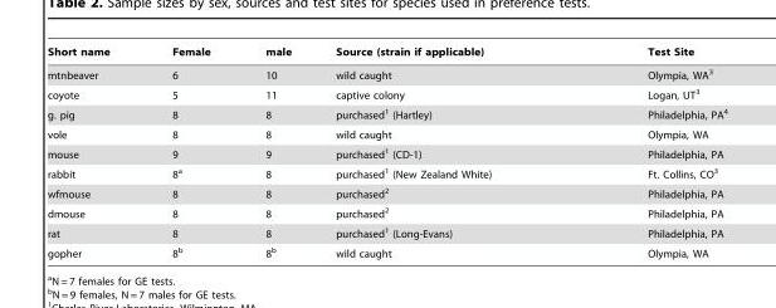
<table><thead><tr><td>Short name</td><td>Female</td><td>male</td><td>Source (strain if applicable)</td><td>Test Site</td></tr></thead><tbody><tr><td>mtnbeaver</td><td>6</td><td>10</td><td>wild caught</td><td>Olympia, WA<sup>3</sup></td></tr><tr><td>coyote</td><td>5</td><td>11</td><td>captive colony</td><td>Logan, UT<sup>3</sup></td></tr><tr><td>g. pig</td><td>8</td><td>8</td><td>purchased<sup>1</sup> (Hartley)</td><td>Philadelphia, PA<sup>4</sup></td></tr><tr><td>vole</td><td>8</td><td>8</td><td>wild caught</td><td>Olympia, WA</td></tr><tr><td>mouse</td><td>9</td><td>9</td><td>purchased<sup>1</sup> (CD-1)</td><td>Philadelphia, PA</td></tr><tr><td>rabbit</td><td>8<sup>a</sup></td><td>8</td><td>purchased<sup>1</sup> (New Zealand White)</td><td>Ft. Collins, CO<sup>3</sup></td></tr><tr><td>wfmouse</td><td>8</td><td>8</td><td>purchased<sup>2</sup></td><td>Philadelphia, PA</td></tr><tr><td>dmouse</td><td>8</td><td>8</td><td>purchased<sup>2</sup></td><td>Philadelphia, PA</td></tr><tr><td>rat</td><td>8</td><td>8</td><td>purchased<sup>1</sup> (Long-Evans)</td><td>Philadelphia, PA</td></tr><tr><td>gopher</td><td>8<sup>b</sup></td><td>8<sup>b</sup></td><td>wild caught</td><td>Olympia, WA</td></tr></tbody></table>